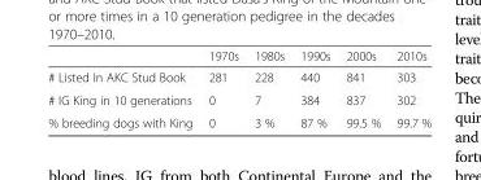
<table><thead><tr><td></td><td>1970s</td><td>1980s</td><td>1990s</td><td>2000s</td><td>2010s</td></tr></thead><tbody><tr><td># Listed In AKC Stud Book</td><td>281</td><td>228</td><td>440</td><td>841</td><td>303</td></tr><tr><td># IG King in 10 generations</td><td>0</td><td>7</td><td>384</td><td>837</td><td>302</td></tr><tr><td>% breeding dogs with King</td><td>0</td><td>3 %</td><td>87 %</td><td>99.5 %</td><td>99.7 %</td></tr></tbody></table>